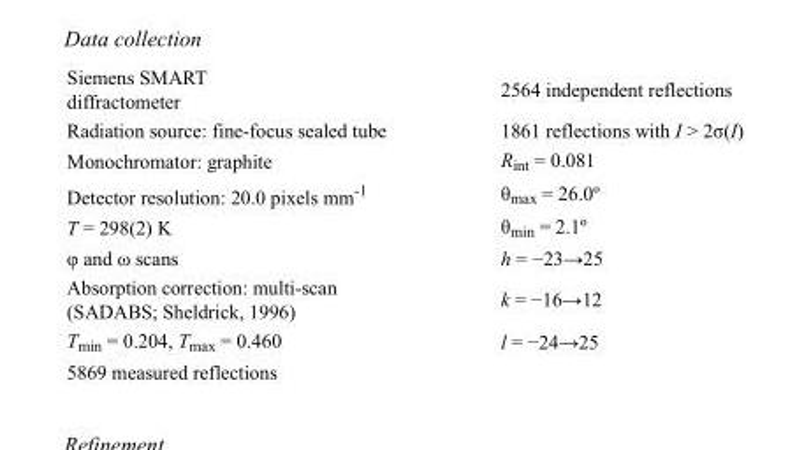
<table><tbody><tr><td>Siemens SMART diffractometer</td><td>2564 independent reflections</td></tr><tr><td>Radiation source: fine-focus sealed tube</td><td>1861 reflections with I &gt; 2σ(I)</td></tr><tr><td>Monochromator: graphite</td><td>R<sub>int</sub> = 0.081</td></tr><tr><td>Detector resolution: 20.0 pixels mm<sup>-1</sup></td><td>θ<sub>max</sub> = 26.0º</td></tr><tr><td>T = 298(2) K</td><td>θ<sub>min</sub> = 2.1º</td></tr><tr><td>φ and ω scans</td><td>h = −23→25</td></tr><tr><td>Absorption correction: multi-scan (SADABS; Sheldrick, 1996)</td><td>k = −16→12</td></tr><tr><td>T<sub>min</sub> = 0.204, T<sub>max</sub> = 0.460</td><td>l = −24→25</td></tr><tr><td>5869 measured reflections</td><td></td></tr></tbody></table>